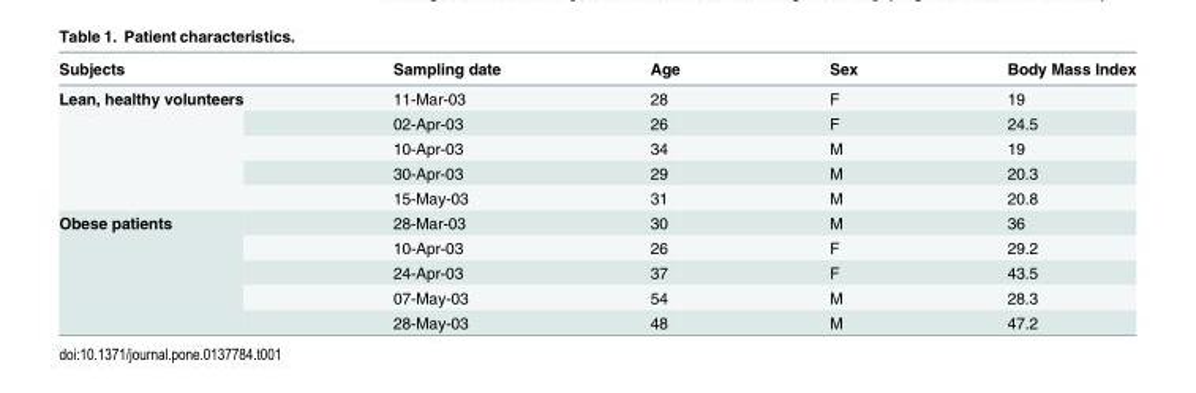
<table><thead><tr><td>Subjects</td><td>Sampling date</td><td>Age</td><td>Sex</td><td>Body Mass Index</td></tr></thead><tbody><tr><td rowspan="5">Lean, healthy volunteers</td><td>11-Mar-03</td><td>28</td><td>F</td><td>19</td></tr><tr><td>02-Apr-03</td><td>26</td><td>F</td><td>24.5</td></tr><tr><td>10-Apr-03</td><td>34</td><td>M</td><td>19</td></tr><tr><td>30-Apr-03</td><td>29</td><td>M</td><td>20.3</td></tr><tr><td>15-May-03</td><td>31</td><td>M</td><td>20.8</td></tr><tr><td rowspan="5">Obese patients</td><td>28-Mar-03</td><td>30</td><td>M</td><td>36</td></tr><tr><td>10-Apr-03</td><td>26</td><td>F</td><td>29.2</td></tr><tr><td>24-Apr-03</td><td>37</td><td>F</td><td>43.5</td></tr><tr><td>07-May-03</td><td>54</td><td>M</td><td>28.3</td></tr><tr><td>28-May-03</td><td>48</td><td>M</td><td>47.2</td></tr></tbody></table>